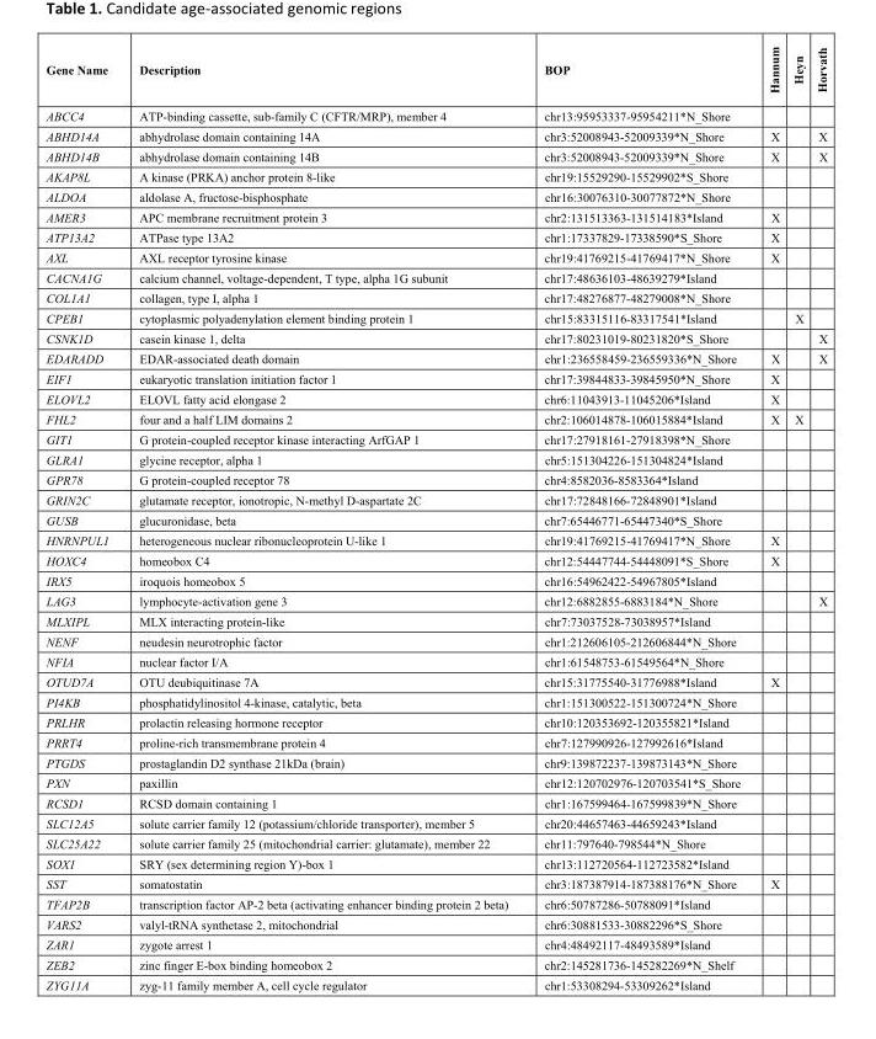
<table><thead><tr><td>Gene Name</td><td>Description</td><td>BOP</td><td>Hannum</td><td>Heyn</td><td>Horvath</td></tr></thead><tbody><tr><td>ABCC4</td><td>ATP-binding cassette, sub-family C (CFTR/MRP), member 4</td><td>chr13:95953337-95954211*N_Shore</td><td></td><td></td><td></td></tr><tr><td>ABHD14A</td><td>abhydrolase domain containing 14A</td><td>chr3:52008943-52009339*N_Shore</td><td>X</td><td></td><td>X</td></tr><tr><td>ABHD14B</td><td>abhydrolase domain containing 14B</td><td>chr3:52008943-52009339*N_Shore</td><td>X</td><td></td><td>X</td></tr><tr><td>AKAP8L</td><td>A kinase (PRKA) anchor protein 8-like</td><td>chr19:15529290-15529902*S_Shore</td><td></td><td></td><td></td></tr><tr><td>ALDOA</td><td>aldolase A, fructose-bisphosphate</td><td>chr16:30076310-30077872*N_Shore</td><td></td><td></td><td></td></tr><tr><td>AMER3</td><td>APC membrane recruitment protein 3</td><td>chr2:131513363-131514183*Island</td><td>X</td><td></td><td></td></tr><tr><td>ATP13A2</td><td>ATPase type 13A2</td><td>chr1:17337829-17338590*S_Shore</td><td>X</td><td></td><td></td></tr><tr><td>AXL</td><td>AXL receptor tyrosine kinase</td><td>chr19:41769215-41769417*N_Shore</td><td>X</td><td></td><td></td></tr><tr><td>CACNA1G</td><td>calcium channel, voltage-dependent, T type, alpha 1G subunit</td><td>chr17:48636103-48639279*Island</td><td></td><td></td><td></td></tr><tr><td>COL1A1</td><td>collagen, type I, alpha 1</td><td>chr17:48276877-48279008*N_Shore</td><td></td><td></td><td></td></tr><tr><td>CPEB1</td><td>cytoplasmic polyadenylation element binding protein 1</td><td>chr15:83315116-83317541*Island</td><td></td><td>X</td><td></td></tr><tr><td>CSNK1D</td><td>casein kinase 1, delta</td><td>chr17:80231019-80231820*S_Shore</td><td></td><td></td><td>X</td></tr><tr><td>EDARADD</td><td>EDAR-associated death domain</td><td>chr1:236558459-236559336*N_Shore</td><td>X</td><td></td><td>X</td></tr><tr><td>EIF1</td><td>eukaryotic translation initiation factor 1</td><td>chr17:39844833-39845950*N_Shore</td><td>X</td><td></td><td></td></tr><tr><td>ELOVL2</td><td>ELOVL fatty acid elongase 2</td><td>chr6:11043913-11045206*Island</td><td>X</td><td></td><td></td></tr><tr><td>FHL2</td><td>four and a half LIM domains 2</td><td>chr2:106014878-106015884*Island</td><td>X</td><td>X</td><td></td></tr><tr><td>GIT1</td><td>G protein-coupled receptor kinase interacting ArfGAP 1</td><td>chr17:27918161-27918398*N_Shore</td><td></td><td></td><td></td></tr><tr><td>GLRA1</td><td>glycine receptor, alpha 1</td><td>chr5:151304226-151304824*Island</td><td></td><td></td><td></td></tr><tr><td>GPR78</td><td>G protein-coupled receptor 78</td><td>chr4:8582036-8583364*Island</td><td></td><td></td><td></td></tr><tr><td>GRIN2C</td><td>glutamate receptor, ionotropic, N-methyl D-aspartate 2C</td><td>chr17:72848166-72848901*Island</td><td></td><td></td><td></td></tr><tr><td>GUSB</td><td>glucuronidase, beta</td><td>chr7:65446771-65447340*S_Shore</td><td></td><td></td><td></td></tr><tr><td>HNRNPUL1</td><td>heterogeneous nuclear ribonucleoprotein U-like 1</td><td>chr19:41769215-41769417*N_Shore</td><td>X</td><td></td><td></td></tr><tr><td>HOXC4</td><td>homeobox C4</td><td>chr12:54447744-54448091*S_Shore</td><td>X</td><td></td><td></td></tr><tr><td>IRX5</td><td>iroquois homeobox 5</td><td>chr16:54962422-54967805*Island</td><td></td><td></td><td></td></tr><tr><td>LAG3</td><td>lymphocyte-activation gene 3</td><td>chr12:6882855-6883184*N_Shore</td><td></td><td></td><td>X</td></tr><tr><td>MLXIPL</td><td>MLX interacting protein-like</td><td>chr7:73037528-73038957*Island</td><td></td><td></td><td></td></tr><tr><td>NENF</td><td>neudesin neurotrophic factor</td><td>chr1:212606105-212606844*N_Shore</td><td></td><td></td><td></td></tr><tr><td>NFIA</td><td>nuclear factor I/A</td><td>chr1:61548753-61549564*N_Shore</td><td></td><td></td><td></td></tr><tr><td>OTUD7A</td><td>OTU deubiquitinase 7A</td><td>chr15:31775540-31776988*Island</td><td>X</td><td></td><td></td></tr><tr><td>PI4KB</td><td>phosphatidylinositol 4-kinase, catalytic, beta</td><td>chr1:151300522-151300724*N_Shore</td><td></td><td></td><td></td></tr><tr><td>PRLHR</td><td>prolactin releasing hormone receptor</td><td>chr10:120353692-120355821*Island</td><td></td><td></td><td></td></tr><tr><td>PRRT4</td><td>proline-rich transmembrane protein 4</td><td>chr7:127990926-127992616*Island</td><td></td><td></td><td></td></tr><tr><td>PTGDS</td><td>prostaglandin D2 synthase 21kDa (brain)</td><td>chr9:139872237-139873143*N_Shore</td><td></td><td></td><td></td></tr><tr><td>PXN</td><td>paxillin</td><td>chr12:120702976-120703541*S_Shore</td><td></td><td></td><td></td></tr><tr><td>RCSD1</td><td>RCSD domain containing 1</td><td>chr1:167599464-167599839*N_Shore</td><td></td><td></td><td></td></tr><tr><td>SLC12A5</td><td>solute carrier family 12 (potassium/chloride transporter), member 5</td><td>chr20:44657463-44659243*Island</td><td></td><td></td><td></td></tr><tr><td>SLC25A22</td><td>solute carrier family 25 (mitochondrial carrier: glutamate), member 22</td><td>chr11:797640-798544*N_Shore</td><td></td><td></td><td></td></tr><tr><td>SOX1</td><td>SRY (sex determining region Y)-box 1</td><td>chr13:112720564-112723582*Island</td><td></td><td></td><td></td></tr><tr><td>SST</td><td>somatostatin</td><td>chr3:187387914-187388176*N_Shore</td><td>X</td><td></td><td></td></tr><tr><td>TFAP2B</td><td>transcription factor AP-2 beta (activating enhancer binding protein 2 beta)</td><td>chr6:50787286-50788091*Island</td><td></td><td></td><td></td></tr><tr><td>VARS2</td><td>valyl-tRNA synthetase 2, mitochondrial</td><td>chr6:30881533-30882296*S_Shore</td><td></td><td></td><td></td></tr><tr><td>ZAR1</td><td>zygote arrest 1</td><td>chr4:48492117-48493589*Island</td><td></td><td></td><td></td></tr><tr><td>ZEB2</td><td>zinc finger E-box binding homeobox 2</td><td>chr2:145281736-145282269*N_Shelf</td><td></td><td></td><td></td></tr><tr><td>ZYG11A</td><td>zyg-11 family member A, cell cycle regulator</td><td>chr1:53308294-53309262*Island</td><td></td><td></td><td></td></tr></tbody></table>